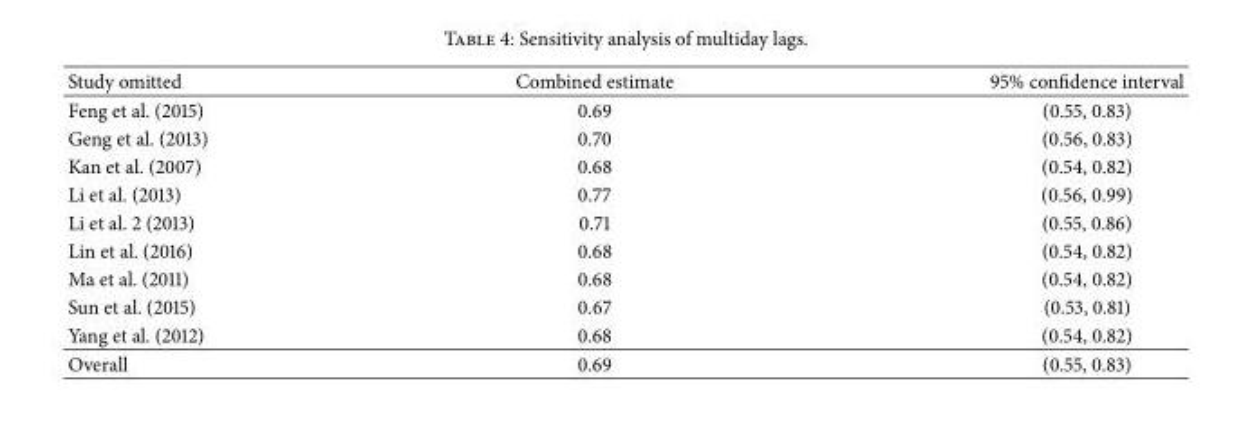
<table><thead><tr><td>Study omitted</td><td>Combined estimate</td><td>95% confidence interval</td></tr></thead><tbody><tr><td>Feng et al. (2015)</td><td>0.69</td><td>(0.55, 0.83)</td></tr><tr><td>Geng et al. (2013)</td><td>0.70</td><td>(0.56, 0.83)</td></tr><tr><td>Kan et al. (2007)</td><td>0.68</td><td>(0.54, 0.82)</td></tr><tr><td>Li et al. (2013)</td><td>0.77</td><td>(0.56, 0.99)</td></tr><tr><td>Li et al. 2 (2013)</td><td>0.71</td><td>(0.55, 0.86)</td></tr><tr><td>Lin et al. (2016)</td><td>0.68</td><td>(0.54, 0.82)</td></tr><tr><td>Ma et al. (2011)</td><td>0.68</td><td>(0.54, 0.82)</td></tr><tr><td>Sun et al. (2015)</td><td>0.67</td><td>(0.53, 0.81)</td></tr><tr><td>Yang et al. (2012)</td><td>0.68</td><td>(0.54, 0.82)</td></tr><tr><td>Overall</td><td>0.69</td><td>(0.55, 0.83)</td></tr></tbody></table>